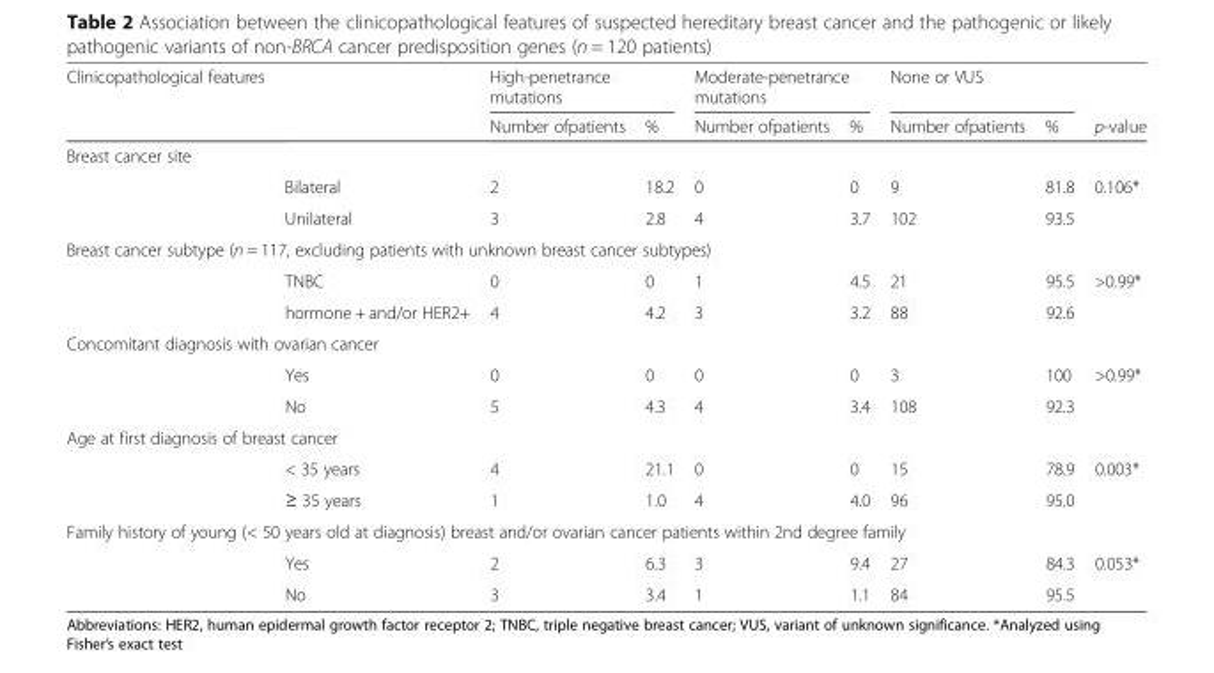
<table><thead><tr><td rowspan="2">Clinicopathological features</td><td rowspan="2"></td><td colspan="2">High-penetrance mutations</td><td colspan="2">Moderate-penetrance mutations</td><td colspan="2">None or VUS</td><td rowspan="2">p-value</td></tr><tr><td>Number ofpatients</td><td>%</td><td>Number ofpatients</td><td>%</td><td>Number ofpatients</td><td>%</td></tr></thead><tbody><tr><td colspan="9">Breast cancer site</td></tr><tr><td></td><td>Bilateral</td><td>2</td><td>18.2</td><td>0</td><td>0</td><td>9</td><td>81.8</td><td>0.106*</td></tr><tr><td></td><td>Unilateral</td><td>3</td><td>2.8</td><td>4</td><td>3.7</td><td>102</td><td>93.5</td><td></td></tr><tr><td colspan="9">Breast cancer subtype (n = 117, excluding patients with unknown breast cancer subtypes)</td></tr><tr><td></td><td>TNBC</td><td>0</td><td>0</td><td>1</td><td>4.5</td><td>21</td><td>95.5</td><td>&gt;0.99*</td></tr><tr><td></td><td>hormone + and/or HER2+</td><td>4</td><td>4.2</td><td>3</td><td>3.2</td><td>88</td><td>92.6</td><td></td></tr><tr><td colspan="9">Concomitant diagnosis with ovarian cancer</td></tr><tr><td></td><td>Yes</td><td>0</td><td>0</td><td>0</td><td>0</td><td>3</td><td>100</td><td>&gt;0.99*</td></tr><tr><td></td><td>No</td><td>5</td><td>4.3</td><td>4</td><td>3.4</td><td>108</td><td>92.3</td><td></td></tr><tr><td colspan="9">Age at first diagnosis of breast cancer</td></tr><tr><td></td><td>&lt; 35 years</td><td>4</td><td>21.1</td><td>0</td><td>0</td><td>15</td><td>78.9</td><td>0.003*</td></tr><tr><td></td><td>≥ 35 years</td><td>1</td><td>1.0</td><td>4</td><td>4.0</td><td>96</td><td>95.0</td><td></td></tr><tr><td colspan="9">Family history of young (&lt; 50 years old at diagnosis) breast and/or ovarian cancer patients within 2nd degree family</td></tr><tr><td></td><td>Yes</td><td>2</td><td>6.3</td><td>3</td><td>9.4</td><td>27</td><td>84.3</td><td>0.053*</td></tr><tr><td></td><td>No</td><td>3</td><td>3.4</td><td>1</td><td>1.1</td><td>84</td><td>95.5</td><td></td></tr></tbody></table>